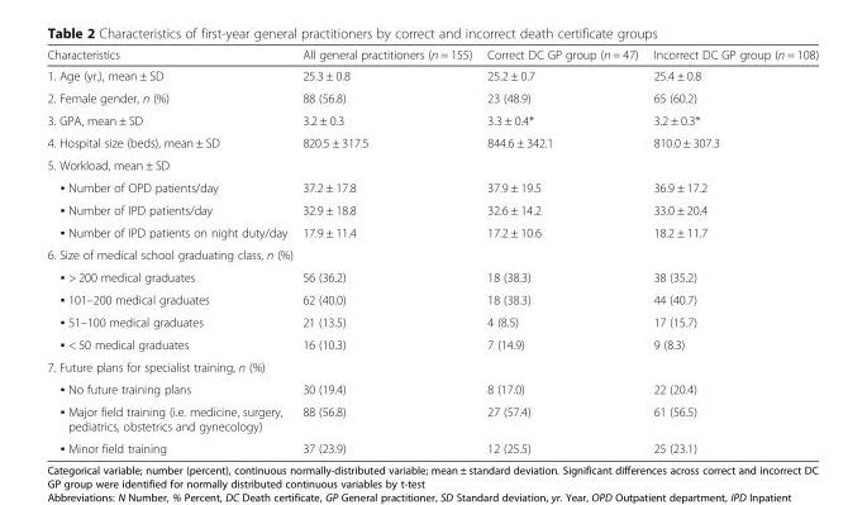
<table><thead><tr><td>Characteristics</td><td>All general practitioners (n = 155)</td><td>Correct DC GP group (n = 47)</td><td>Incorrect DC GP group (n = 108)</td></tr></thead><tbody><tr><td>1. Age (yr.), mean ± SD</td><td>25.3 ± 0.8</td><td>25.2 ± 0.7</td><td>25.4 ± 0.8</td></tr><tr><td>2. Female gender, n (%)</td><td>88 (56.8)</td><td>23 (48.9)</td><td>65 (60.2)</td></tr><tr><td>3. GPA, mean ± SD</td><td>3.2 ± 0.3</td><td>3.3 ± 0.4*</td><td>3.2 ± 0.3*</td></tr><tr><td>4. Hospital size (beds), mean ± SD</td><td>820.5 ± 317.5</td><td>844.6 ± 342.1</td><td>810.0 ± 307.3</td></tr><tr><td colspan="4">5. Workload, mean ± SD</td></tr><tr><td>▪ Number of OPD patients/day</td><td>37.2 ± 17.8</td><td>37.9 ± 19.5</td><td>36.9 ± 17.2</td></tr><tr><td>▪ Number of IPD patients/day</td><td>32.9 ± 18.8</td><td>32.6 ± 14.2</td><td>33.0 ± 20.4</td></tr><tr><td>▪ Number of IPD patients on night duty/day</td><td>17.9 ± 11.4</td><td>17.2 ± 10.6</td><td>18.2 ± 11.7</td></tr><tr><td colspan="4">6. Size of medical school graduating class, n (%)</td></tr><tr><td>▪ &gt; 200 medical graduates</td><td>56 (36.2)</td><td>18 (38.3)</td><td>38 (35.2)</td></tr><tr><td>▪ 101–200 medical graduates</td><td>62 (40.0)</td><td>18 (38.3)</td><td>44 (40.7)</td></tr><tr><td>▪ 51–100 medical graduates</td><td>21 (13.5)</td><td>4 (8.5)</td><td>17 (15.7)</td></tr><tr><td>▪ &lt; 50 medical graduates</td><td>16 (10.3)</td><td>7 (14.9)</td><td>9 (8.3)</td></tr><tr><td colspan="4">7. Future plans for specialist training, n (%)</td></tr><tr><td>▪ No future training plans</td><td>30 (19.4)</td><td>8 (17.0)</td><td>22 (20.4)</td></tr><tr><td>▪ Major field training (i.e. medicine, surgery, pediatrics, obstetrics and gynecology)</td><td>88 (56.8)</td><td>27 (57.4)</td><td>61 (56.5)</td></tr><tr><td>▪ Minor field training</td><td>37 (23.9)</td><td>12 (25.5)</td><td>25 (23.1)</td></tr></tbody></table>